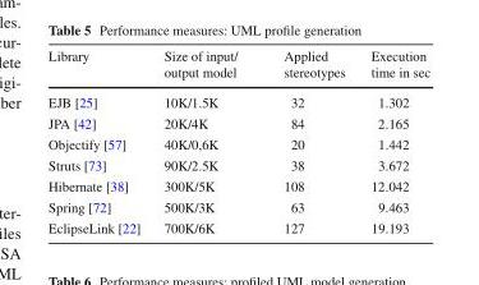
<table><thead><tr><td>Library</td><td>Size of input/ output model</td><td>Applied stereotypes</td><td>Execution time in sec</td></tr></thead><tbody><tr><td>EJB [25]</td><td>10K/1.5K</td><td>32</td><td>1.302</td></tr><tr><td>JPA [42]</td><td>20K/4K</td><td>84</td><td>2.165</td></tr><tr><td>Objectify [57]</td><td>40K/0,6K</td><td>20</td><td>1.442</td></tr><tr><td>Struts [73]</td><td>90K/2.5K</td><td>38</td><td>3.672</td></tr><tr><td>Hibernate [38]</td><td>300K/5K</td><td>108</td><td>12.042</td></tr><tr><td>Spring [72]</td><td>500K/3K</td><td>63</td><td>9.463</td></tr><tr><td>EclipseLink [22]</td><td>700K/6K</td><td>127</td><td>19.193</td></tr></tbody></table>